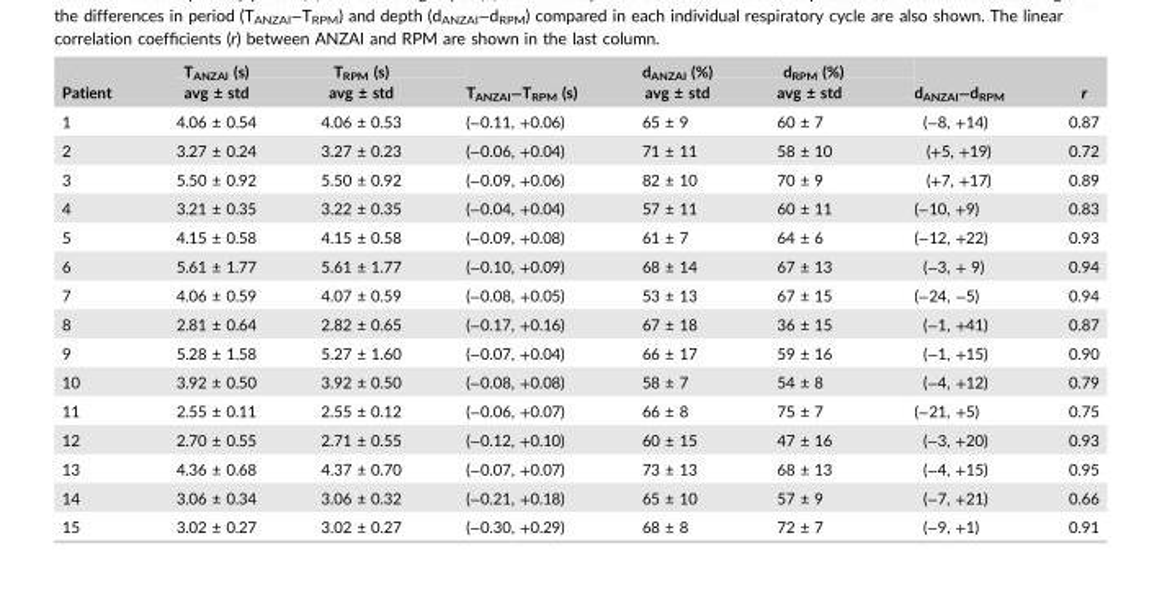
<table><thead><tr><td rowspan="2">Patient</td><td rowspan="2">T<sub>ANZAI</sub> (s) avg ± std</td><td rowspan="2">T<sub>RPM</sub> (s) avg ± std</td><td rowspan="2">T<sub>ANZAI</sub>−T<sub>RPM</sub> (s)</td><td rowspan="2">d<sub>ANZAI</sub> (%) avg ± std</td><td rowspan="2">d<sub>RPM</sub> (%) avg ± std</td><td rowspan="2">d<sub>ANZAI</sub>−d<sub>RPM</sub></td><td rowspan="2">r</td></tr><tr></tr></thead><tbody><tr><td>1</td><td>4.06 ± 0.54</td><td>4.06 ± 0.53</td><td>(−0.11, +0.06)</td><td>65 ± 9</td><td>60 ± 7</td><td>(−8, +14)</td><td>0.87</td></tr><tr><td>2</td><td>3.27 ± 0.24</td><td>3.27 ± 0.23</td><td>(−0.06, +0.04)</td><td>71 ± 11</td><td>58 ± 10</td><td>(+5, +19)</td><td>0.72</td></tr><tr><td>3</td><td>5.50 ± 0.92</td><td>5.50 ± 0.92</td><td>(−0.09, +0.06)</td><td>82 ± 10</td><td>70 ± 9</td><td>(+7, +17)</td><td>0.89</td></tr><tr><td>4</td><td>3.21 ± 0.35</td><td>3.22 ± 0.35</td><td>(−0.04, +0.04)</td><td>57 ± 11</td><td>60 ± 11</td><td>(−10, +9)</td><td>0.83</td></tr><tr><td>5</td><td>4.15 ± 0.58</td><td>4.15 ± 0.58</td><td>(−0.09, +0.08)</td><td>61 ± 7</td><td>64 ± 6</td><td>(−12, +22)</td><td>0.93</td></tr><tr><td>6</td><td>5.61 ± 1.77</td><td>5.61 ± 1.77</td><td>(−0.10, +0.09)</td><td>68 ± 14</td><td>67 ± 13</td><td>(−3, + 9)</td><td>0.94</td></tr><tr><td>7</td><td>4.06 ± 0.59</td><td>4.07 ± 0.59</td><td>(−0.08, +0.05)</td><td>53 ± 13</td><td>67 ± 15</td><td>(−24, −5)</td><td>0.94</td></tr><tr><td>8</td><td>2.81 ± 0.64</td><td>2.82 ± 0.65</td><td>(−0.17, +0.16)</td><td>67 ± 18</td><td>36 ± 15</td><td>(−1, +41)</td><td>0.87</td></tr><tr><td>9</td><td>5.28 ± 1.58</td><td>5.27 ± 1.60</td><td>(−0.07, +0.04)</td><td>66 ± 17</td><td>59 ± 16</td><td>(−1, +15)</td><td>0.90</td></tr><tr><td>10</td><td>3.92 ± 0.50</td><td>3.92 ± 0.50</td><td>(−0.08, +0.08)</td><td>58 ± 7</td><td>54 ± 8</td><td>(−4, +12)</td><td>0.79</td></tr><tr><td>11</td><td>2.55 ± 0.11</td><td>2.55 ± 0.12</td><td>(−0.06, +0.07)</td><td>66 ± 8</td><td>75 ± 7</td><td>(−21, +5)</td><td>0.75</td></tr><tr><td>12</td><td>2.70 ± 0.55</td><td>2.71 ± 0.55</td><td>(−0.12, +0.10)</td><td>60 ± 15</td><td>47 ± 16</td><td>(−3, +20)</td><td>0.93</td></tr><tr><td>13</td><td>4.36 ± 0.68</td><td>4.37 ± 0.70</td><td>(−0.07, +0.07)</td><td>73 ± 13</td><td>68 ± 13</td><td>(−4, +15)</td><td>0.95</td></tr><tr><td>14</td><td>3.06 ± 0.34</td><td>3.06 ± 0.32</td><td>(−0.21, +0.18)</td><td>65 ± 10</td><td>57 ± 9</td><td>(−7, +21)</td><td>0.66</td></tr><tr><td>15</td><td>3.02 ± 0.27</td><td>3.02 ± 0.27</td><td>(−0.30, +0.29)</td><td>68 ± 8</td><td>72 ± 7</td><td>(−9, +1)</td><td>0.91</td></tr></tbody></table>